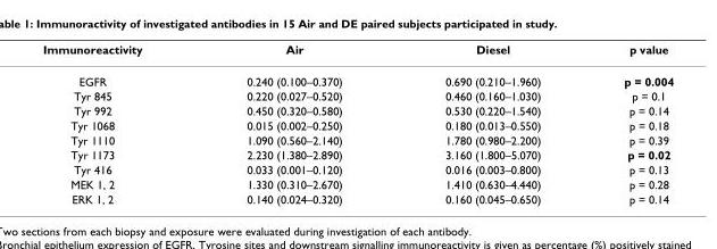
<table><thead><tr><td>Immunoreactivity</td><td>Air</td><td>Diesel</td><td>p value</td></tr></thead><tbody><tr><td>EGFR</td><td>0.240 (0.100–0.370)</td><td>0.690 (0.210–1.960)</td><td>p = 0.004</td></tr><tr><td>Tyr 845</td><td>0.220 (0.027–0.520)</td><td>0.460 (0.160–1.030)</td><td>p = 0.1</td></tr><tr><td>Tyr 992</td><td>0.450 (0.320–0.580)</td><td>0.530 (0.220–1.540)</td><td>p = 0.14</td></tr><tr><td>Tyr 1068</td><td>0.015 (0.002–0.250)</td><td>0.180 (0.013–0.550)</td><td>p = 0.18</td></tr><tr><td>Tyr 1110</td><td>1.090 (0.560–2.140)</td><td>1.780 (0.980–2.200)</td><td>p = 0.39</td></tr><tr><td>Tyr 1173</td><td>2.230 (1.380–2.890)</td><td>3.160 (1.800–5.070)</td><td>p = 0.02</td></tr><tr><td>Tyr 416</td><td>0.033 (0.001–0.120)</td><td>0.016 (0.003–0.800)</td><td>p = 0.13</td></tr><tr><td>MEK 1, 2</td><td>1.330 (0.310–2.670)</td><td>1.410 (0.630–4.440)</td><td>p = 0.28</td></tr><tr><td>ERK 1, 2</td><td>0.140 (0.024–0.320)</td><td>0.160 (0.045–0.650)</td><td>p = 0.14</td></tr></tbody></table>